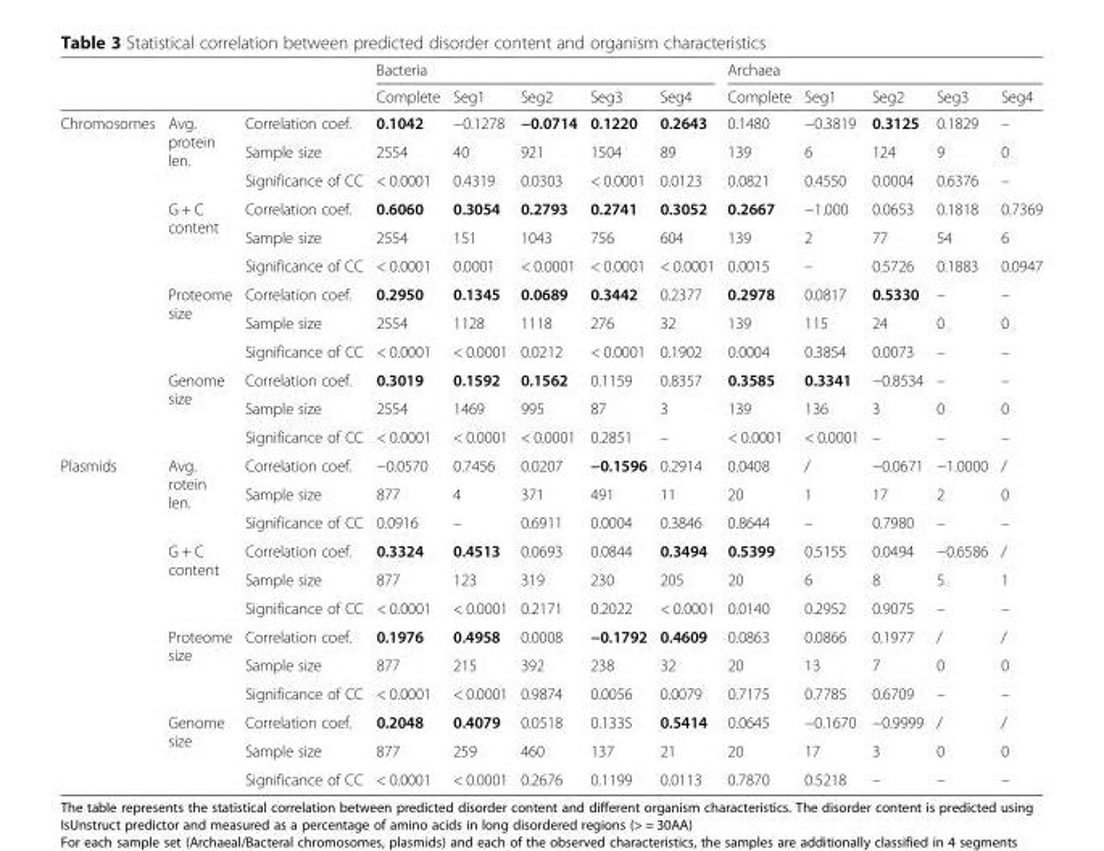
<table><thead><tr><td rowspan="2"></td><td rowspan="2"></td><td rowspan="2"></td><td colspan="5">Bacteria</td><td colspan="5">Archaea</td></tr><tr><td>Complete</td><td>Seg1</td><td>Seg2</td><td>Seg3</td><td>Seg4</td><td>Complete</td><td>Seg1</td><td>Seg2</td><td>Seg3</td><td>Seg4</td></tr></thead><tbody><tr><td rowspan="12">Chromosomes</td><td rowspan="3">Avg. protein len.</td><td>Correlation coef.</td><td>0.1042</td><td>−0.1278</td><td>−0.0714</td><td>0.1220</td><td>0.2643</td><td>0.1480</td><td>−0.3819</td><td>0.3125</td><td>0.1829</td><td>–</td></tr><tr><td>Sample size</td><td>2554</td><td>40</td><td>921</td><td>1504</td><td>89</td><td>139</td><td>6</td><td>124</td><td>9</td><td>0</td></tr><tr><td>Significance of CC</td><td>&lt; 0.0001</td><td>0.4319</td><td>0.0303</td><td>&lt; 0.0001</td><td>0.0123</td><td>0.0821</td><td>0.4550</td><td>0.0004</td><td>0.6376</td><td>–</td></tr><tr><td rowspan="3">G + C content</td><td>Correlation coef.</td><td>0.6060</td><td>0.3054</td><td>0.2793</td><td>0.2741</td><td>0.3052</td><td>0.2667</td><td>−1.000</td><td>0.0653</td><td>0.1818</td><td>0.7369</td></tr><tr><td>Sample size</td><td>2554</td><td>151</td><td>1043</td><td>756</td><td>604</td><td>139</td><td>2</td><td>77</td><td>54</td><td>6</td></tr><tr><td>Significance of CC</td><td>&lt; 0.0001</td><td>0.0001</td><td>&lt; 0.0001</td><td>&lt; 0.0001</td><td>&lt; 0.0001</td><td>0.0015</td><td>–</td><td>0.5726</td><td>0.1883</td><td>0.0947</td></tr><tr><td rowspan="3">Proteome size</td><td>Correlation coef.</td><td>0.2950</td><td>0.1345</td><td>0.0689</td><td>0.3442</td><td>0.2377</td><td>0.2978</td><td>0.0817</td><td>0.5330</td><td>–</td><td>–</td></tr><tr><td>Sample size</td><td>2554</td><td>1128</td><td>1118</td><td>276</td><td>32</td><td>139</td><td>115</td><td>24</td><td>0</td><td>0</td></tr><tr><td>Significance of CC</td><td>&lt; 0.0001</td><td>&lt; 0.0001</td><td>0.0212</td><td>&lt; 0.0001</td><td>0.1902</td><td>0.0004</td><td>0.3854</td><td>0.0073</td><td>–</td><td>–</td></tr><tr><td rowspan="3">Genome size</td><td>Correlation coef.</td><td>0.3019</td><td>0.1592</td><td>0.1562</td><td>0.1159</td><td>0.8357</td><td>0.3585</td><td>0.3341</td><td>−0.8534</td><td>–</td><td>–</td></tr><tr><td>Sample size</td><td>2554</td><td>1469</td><td>995</td><td>87</td><td>3</td><td>139</td><td>136</td><td>3</td><td>0</td><td>0</td></tr><tr><td>Significance of CC</td><td>&lt; 0.0001</td><td>&lt; 0.0001</td><td>&lt; 0.0001</td><td>0.2851</td><td>–</td><td>&lt; 0.0001</td><td>&lt; 0.0001</td><td>–</td><td>–</td><td>–</td></tr><tr><td rowspan="12">Plasmids</td><td rowspan="3">Avg. rotein len.</td><td>Correlation coef.</td><td>−0.0570</td><td>0.7456</td><td>0.0207</td><td>−0.1596</td><td>0.2914</td><td>0.0408</td><td>/</td><td>−0.0671</td><td>−1.0000</td><td>/</td></tr><tr><td>Sample size</td><td>877</td><td>4</td><td>371</td><td>491</td><td>11</td><td>20</td><td>1</td><td>17</td><td>2</td><td>0</td></tr><tr><td>Significance of CC</td><td>0.0916</td><td>–</td><td>0.6911</td><td>0.0004</td><td>0.3846</td><td>0.8644</td><td>–</td><td>0.7980</td><td>–</td><td>–</td></tr><tr><td rowspan="3">G + C content</td><td>Correlation coef.</td><td>0.3324</td><td>0.4513</td><td>0.0693</td><td>0.0844</td><td>0.3494</td><td>0.5399</td><td>0.5155</td><td>0.0494</td><td>−0.6586</td><td>/</td></tr><tr><td>Sample size</td><td>877</td><td>123</td><td>319</td><td>230</td><td>205</td><td>20</td><td>6</td><td>8</td><td>5</td><td>1</td></tr><tr><td>Significance of CC</td><td>&lt; 0.0001</td><td>&lt; 0.0001</td><td>0.2171</td><td>0.2022</td><td>&lt; 0.0001</td><td>0.0140</td><td>0.2952</td><td>0.9075</td><td>–</td><td>–</td></tr><tr><td rowspan="3">Proteome size</td><td>Correlation coef.</td><td>0.1976</td><td>0.4958</td><td>0.0008</td><td>−0.1792</td><td>0.4609</td><td>0.0863</td><td>0.0866</td><td>0.1977</td><td>/</td><td>/</td></tr><tr><td>Sample size</td><td>877</td><td>215</td><td>392</td><td>238</td><td>32</td><td>20</td><td>13</td><td>7</td><td>0</td><td>0</td></tr><tr><td>Significance of CC</td><td>&lt; 0.0001</td><td>&lt; 0.0001</td><td>0.9874</td><td>0.0056</td><td>0.0079</td><td>0.7175</td><td>0.7785</td><td>0.6709</td><td>–</td><td>–</td></tr><tr><td rowspan="3">Genome size</td><td>Correlation coef.</td><td>0.2048</td><td>0.4079</td><td>0.0518</td><td>0.1335</td><td>0.5414</td><td>0.0645</td><td>−0.1670</td><td>−0.9999</td><td>/</td><td>/</td></tr><tr><td>Sample size</td><td>877</td><td>259</td><td>460</td><td>137</td><td>21</td><td>20</td><td>17</td><td>3</td><td>0</td><td>0</td></tr><tr><td>Significance of CC</td><td>&lt; 0.0001</td><td>&lt; 0.0001</td><td>0.2676</td><td>0.1199</td><td>0.0113</td><td>0.7870</td><td>0.5218</td><td>–</td><td>–</td><td>–</td></tr></tbody></table>